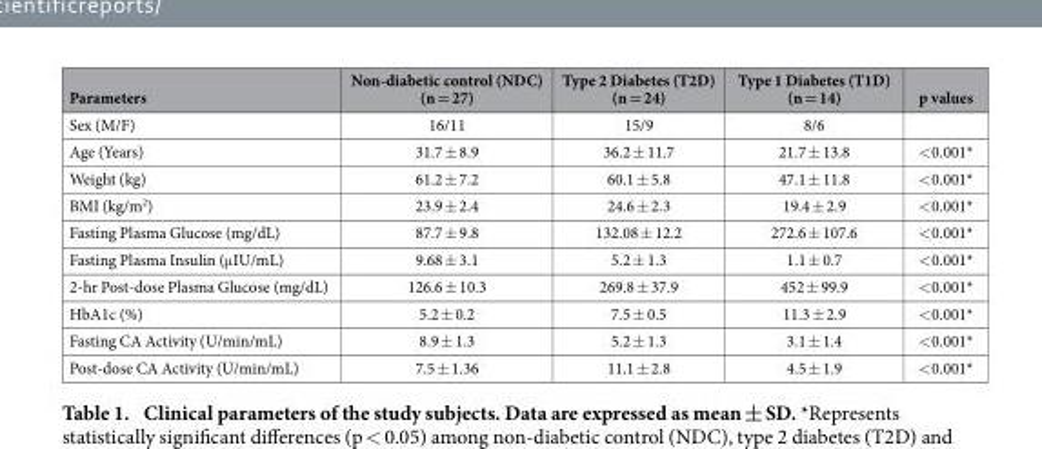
<table><thead><tr><td>Parameters</td><td>Non-diabetic control (NDC) (n = 27)</td><td>Type 2 Diabetes (T2D) (n = 24)</td><td>Type 1 Diabetes (T1D) (n = 14)</td><td>p values</td></tr></thead><tbody><tr><td>Sex (M/F)</td><td>16/11</td><td>15/9</td><td>8/6</td><td></td></tr><tr><td>Age (Years)</td><td>31.7 ± 8.9</td><td>36.2 ± 11.7</td><td>21.7 ± 13.8</td><td>&lt; 0.001*</td></tr><tr><td>Weight (kg)</td><td>61.2 ± 7.2</td><td>60.1 ± 5.8</td><td>47.1 ± 11.8</td><td>&lt; 0.001*</td></tr><tr><td>BMI (kg/m<sup>2</sup>)</td><td>23.9 ± 2.4</td><td>24.6 ± 2.3</td><td>19.4 ± 2.9</td><td>&lt; 0.001*</td></tr><tr><td>Fasting Plasma Glucose (mg/dL)</td><td>87.7 ± 9.8</td><td>132.08 ± 12.2</td><td>272.6 ± 107.6</td><td>&lt; 0.001*</td></tr><tr><td>Fasting Plasma Insulin (μ IU/mL)</td><td>9.68 ± 3.1</td><td>5.2 ± 1.3</td><td>1.1 ± 0.7</td><td>&lt; 0.001*</td></tr><tr><td>2-hr Post-dose Plasma Glucose (mg/dL)</td><td>126.6 ± 10.3</td><td>269.8 ± 37.9</td><td>452 ± 99.9</td><td>&lt; 0.001*</td></tr><tr><td>HbA1c (%)</td><td>5.2 ± 0.2</td><td>7.5 ± 0.5</td><td>11.3 ± 2.9</td><td>&lt; 0.001*</td></tr><tr><td>Fasting CA Activity (U/min/mL)</td><td>8.9 ± 1.3</td><td>5.2 ± 1.3</td><td>3.1 ± 1.4</td><td>&lt; 0.001*</td></tr><tr><td>Post-dose CA Activity (U/min/mL)</td><td>7.5 ± 1.36</td><td>11.1 ± 2.8</td><td>4.5 ± 1.9</td><td>&lt; 0.001*</td></tr></tbody></table>